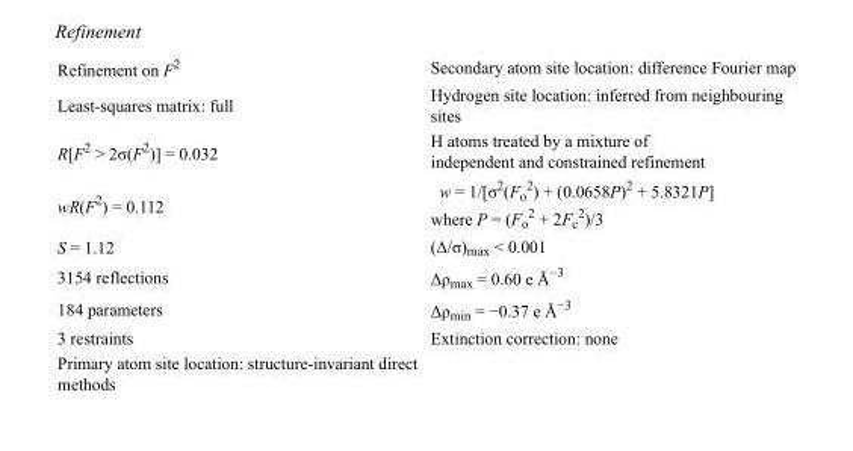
<table><tbody><tr><td>Refinement on F<sup>2</sup></td><td>Secondary atom site location: difference Fourier map</td></tr><tr><td>Least-squares matrix: full</td><td>Hydrogen site location: inferred from neighbouring sites</td></tr><tr><td>R[F<sup>2</sup> &gt; 2σ(F<sup>2</sup>)] = 0.032</td><td>H atoms treated by a mixture of independent and constrained refinement</td></tr><tr><td>wR(F<sup>2</sup>) = 0.112</td><td>w = 1/[σ<sup>2</sup>(F<sub>o</sub> <sup>2</sup>) + (0.0658P)<sup>2</sup> + 5.8321P] where P = (F<sub>o</sub> <sup>2</sup> + 2F<sub>c</sub> <sup>2</sup>)/3</td></tr><tr><td>S = 1.12</td><td>(Δ/σ)<sub>max</sub> &lt; 0.001</td></tr><tr><td>3154 reflections</td><td>Δρ<sub>max</sub> = 0.60 e Å<sup>−3</sup></td></tr><tr><td>184 parameters</td><td>Δρ<sub>min</sub> = −0.37 e Å<sup>−3</sup></td></tr><tr><td>3 restraints</td><td>Extinction correction: none</td></tr><tr><td>Primary atom site location: structure-invariant direct methods</td><td></td></tr></tbody></table>